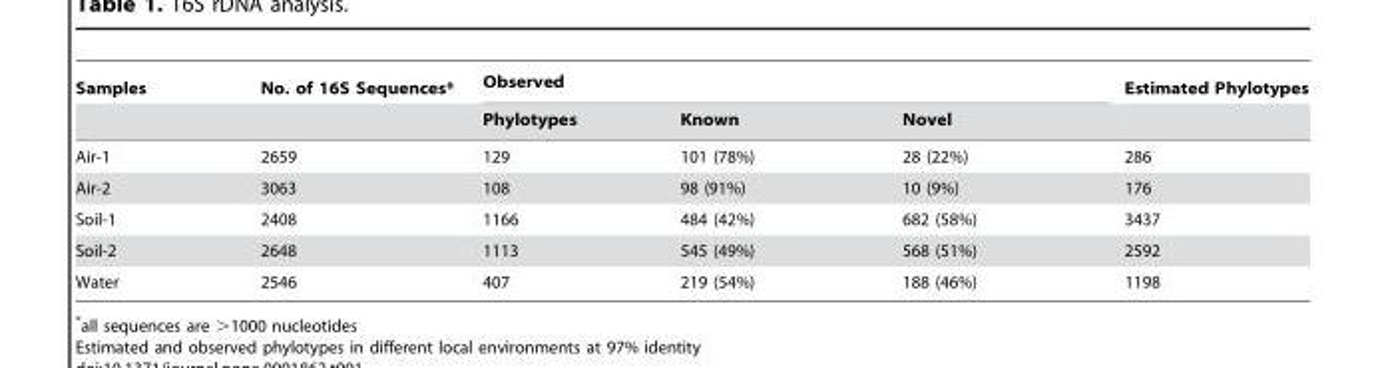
<table><thead><tr><td rowspan="2">Samples</td><td rowspan="2">No. of 16S Sequences*</td><td colspan="3">Observed</td><td rowspan="2">Estimated Phylotypes</td></tr><tr><td>Phylotypes</td><td>Known</td><td>Novel</td></tr></thead><tbody><tr><td>Air-1</td><td>2659</td><td>129</td><td>101 (78%)</td><td>28 (22%)</td><td>286</td></tr><tr><td>Air-2</td><td>3063</td><td>108</td><td>98 (91%)</td><td>10 (9%)</td><td>176</td></tr><tr><td>Soil-1</td><td>2408</td><td>1166</td><td>484 (42%)</td><td>682 (58%)</td><td>3437</td></tr><tr><td>Soil-2</td><td>2648</td><td>1113</td><td>545 (49%)</td><td>568 (51%)</td><td>2592</td></tr><tr><td>Water</td><td>2546</td><td>407</td><td>219 (54%)</td><td>188 (46%)</td><td>1198</td></tr></tbody></table>